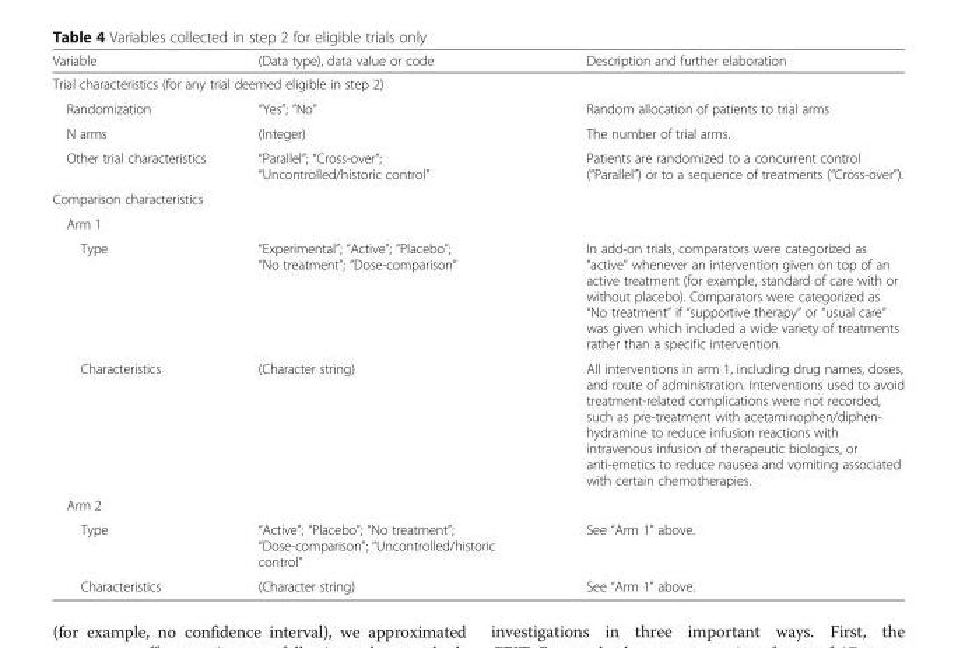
<table><thead><tr><td>Variable</td><td>(Data type), data value or code</td><td>Description and further elaboration</td></tr></thead><tbody><tr><td colspan="3">Trial characteristics (for any trial deemed eligible in step 2)</td></tr><tr><td>Randomization</td><td>“Yes”; “No”</td><td>Random allocation of patients to trial arms</td></tr><tr><td>N arms</td><td>(Integer)</td><td>The number of trial arms.</td></tr><tr><td>Other trial characteristics</td><td>“Parallel”; “Cross-over”; “Uncontrolled/historic control”</td><td>Patients are randomized to a concurrent control (“Parallel”) or to a sequence of treatments (“Cross-over”).</td></tr><tr><td colspan="3">Comparison characteristics</td></tr><tr><td colspan="3">Arm 1</td></tr><tr><td>Type</td><td>“Experimental”; “Active”; “Placebo”; “No treatment”; “Dose-comparison”</td><td>In add-on trials, comparators were categorized as “active” whenever an intervention given on top of an active treatment (for example, standard of care with or without placebo). Comparators were categorized as “No treatment” if “supportive therapy” or “usual care” was given which included a wide variety of treatments rather than a specific intervention.</td></tr><tr><td>Characteristics</td><td>(Character string)</td><td>All interventions in arm 1, including drug names, doses, and route of administration. Interventions used to avoid treatment-related complications were not recorded, such as pre-treatment with acetaminophen/diphen- hydramine to reduce infusion reactions with intravenous infusion of therapeutic biologics, or anti-emetics to reduce nausea and vomiting associated with certain chemotherapies.</td></tr><tr><td colspan="3">Arm 2</td></tr><tr><td>Type</td><td>“Active”; “Placebo”; “No treatment”; “Dose-comparison”; “Uncontrolled/historic control”</td><td>See “Arm 1” above.</td></tr><tr><td>Characteristics</td><td>(Character string)</td><td>See “Arm 1” above.</td></tr></tbody></table>